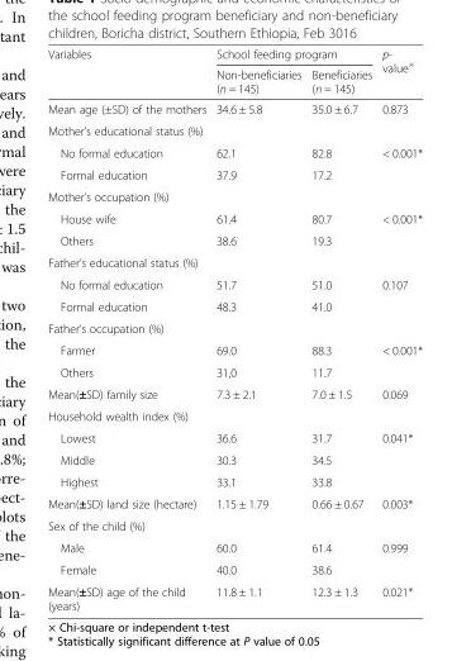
<table><thead><tr><td rowspan="2">Variables</td><td colspan="2">School feeding program</td><td rowspan="2">p- value<sup>×</sup></td></tr><tr><td>Non-beneficiaries (n = 145)</td><td>Beneficiaries (n = 145)</td></tr></thead><tbody><tr><td>Mean age (±SD) of the mothers</td><td>34.6 ± 5.8</td><td>35.0 ± 6.7</td><td>0.873</td></tr><tr><td colspan="4">Mother’s educational status (%)</td></tr><tr><td>No formal education</td><td>62.1</td><td>82.8</td><td rowspan="2">&lt; 0.001*</td></tr><tr><td>Formal education</td><td>37.9</td><td>17.2</td></tr><tr><td colspan="4">Mother’s occupation (%)</td></tr><tr><td>House wife</td><td>61.4</td><td>80.7</td><td rowspan="2">&lt; 0.001*</td></tr><tr><td>Others</td><td>38.6</td><td>19.3</td></tr><tr><td colspan="4">Father’s educational status (%)</td></tr><tr><td>No formal education</td><td>51.7</td><td>51.0</td><td rowspan="2">0.107</td></tr><tr><td>Formal education</td><td>48.3</td><td>41.0</td></tr><tr><td colspan="4">Father’s occupation (%)</td></tr><tr><td>Farmer</td><td>69.0</td><td>88.3</td><td rowspan="2">&lt; 0.001*</td></tr><tr><td>Others</td><td>31,0</td><td>11.7</td></tr><tr><td>Mean(±SD) family size</td><td>7.3 ± 2.1</td><td>7.0 ± 1.5</td><td>0.069</td></tr><tr><td colspan="4">Household wealth index (%)</td></tr><tr><td>Lowest</td><td>36.6</td><td>31.7</td><td rowspan="3">0.041*</td></tr><tr><td>Middle</td><td>30.3</td><td>34.5</td></tr><tr><td>Highest</td><td>33.1</td><td>33.8</td></tr><tr><td>Mean(±SD) land size (hectare)</td><td>1.15 ± 1.79</td><td>0.66 ± 0.67</td><td>0.003*</td></tr><tr><td colspan="4">Sex of the child (%)</td></tr><tr><td>Male</td><td>60.0</td><td>61.4</td><td rowspan="2">0.999</td></tr><tr><td>Female</td><td>40.0</td><td>38.6</td></tr><tr><td>Mean(±SD) age of the child (years)</td><td>11.8 ± 1.1</td><td>12.3 ± 1.3</td><td>0.021*</td></tr></tbody></table>